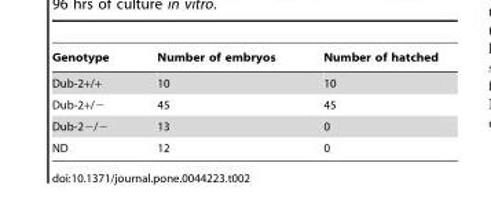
<table><thead><tr><td>Genotype</td><td>Number of embryos</td><td>Number of hatched</td></tr></thead><tbody><tr><td>Dub-2+/+</td><td>10</td><td>10</td></tr><tr><td>Dub-2+/−</td><td>45</td><td>45</td></tr><tr><td>Dub-2−/−</td><td>13</td><td>0</td></tr><tr><td>ND</td><td>12</td><td>0</td></tr></tbody></table>